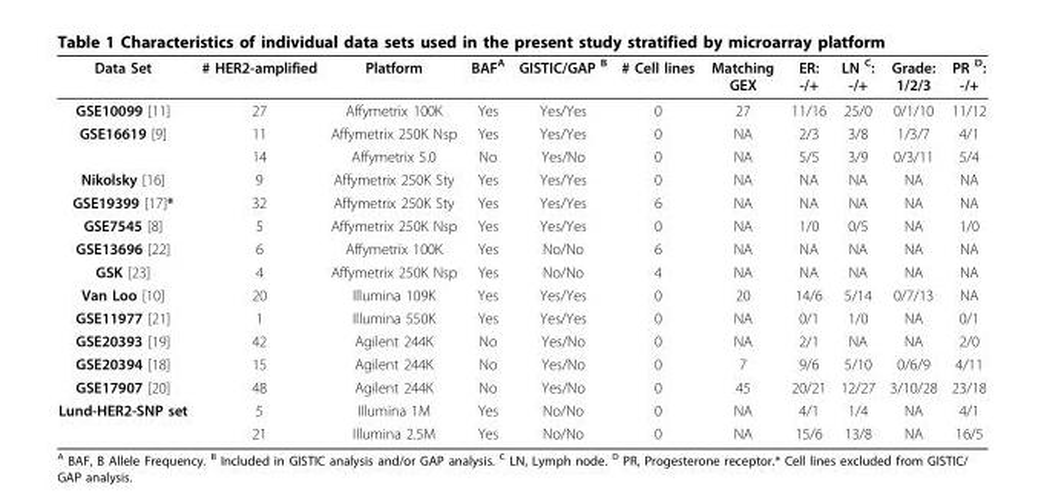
<table><thead><tr><td>Data Set</td><td># HER2-amplified</td><td>Platform</td><td>BAF<sup>A</sup></td><td>GISTIC/GAP <sup>B</sup></td><td># Cell lines</td><td>Matching GEX</td><td>ER: -/+</td><td>LN <sup>C</sup>: -/+</td><td>Grade: 1/2/3</td><td>PR <sup>D</sup>: -/+</td></tr></thead><tbody><tr><td>GSE10099 [11]</td><td>27</td><td>Affymetrix 100K</td><td>Yes</td><td>Yes/Yes</td><td>0</td><td>27</td><td>11/16</td><td>25/0</td><td>0/1/10</td><td>11/12</td></tr><tr><td rowspan="2">GSE16619 [9]</td><td>11</td><td>Affymetrix 250K Nsp</td><td>Yes</td><td>Yes/Yes</td><td>0</td><td>NA</td><td>2/3</td><td>3/8</td><td>1/3/7</td><td>4/1</td></tr><tr><td>14</td><td>Affymetrix 5.0</td><td>No</td><td>Yes/No</td><td>0</td><td>NA</td><td>5/5</td><td>3/9</td><td>0/3/11</td><td>5/4</td></tr><tr><td>Nikolsky [16]</td><td>9</td><td>Affymetrix 250K Sty</td><td>Yes</td><td>Yes/Yes</td><td>0</td><td>NA</td><td>NA</td><td>NA</td><td>NA</td><td>NA</td></tr><tr><td>GSE19399 [17]*</td><td>32</td><td>Affymetrix 250K Sty</td><td>Yes</td><td>Yes/Yes</td><td>6</td><td>NA</td><td>NA</td><td>NA</td><td>NA</td><td>NA</td></tr><tr><td>GSE7545 [8]</td><td>5</td><td>Affymetrix 250K Nsp</td><td>Yes</td><td>Yes/Yes</td><td>0</td><td>NA</td><td>1/0</td><td>0/5</td><td>NA</td><td>1/0</td></tr><tr><td>GSE13696 [22]</td><td>6</td><td>Affymetrix 100K</td><td>Yes</td><td>No/No</td><td>6</td><td>NA</td><td>NA</td><td>NA</td><td>NA</td><td>NA</td></tr><tr><td>GSK [23]</td><td>4</td><td>Affymetrix 250K Nsp</td><td>Yes</td><td>No/No</td><td>4</td><td>NA</td><td>NA</td><td>NA</td><td>NA</td><td>NA</td></tr><tr><td>Van Loo [10]</td><td>20</td><td>Illumina 109K</td><td>Yes</td><td>Yes/Yes</td><td>0</td><td>20</td><td>14/6</td><td>5/14</td><td>0/7/13</td><td>NA</td></tr><tr><td>GSE11977 [21]</td><td>1</td><td>Illumina 550K</td><td>Yes</td><td>Yes/Yes</td><td>0</td><td>NA</td><td>0/1</td><td>1/0</td><td>NA</td><td>0/1</td></tr><tr><td>GSE20393 [19]</td><td>42</td><td>Agilent 244K</td><td>No</td><td>Yes/No</td><td>0</td><td>NA</td><td>2/1</td><td>NA</td><td>NA</td><td>2/0</td></tr><tr><td>GSE20394 [18]</td><td>15</td><td>Agilent 244K</td><td>No</td><td>Yes/No</td><td>0</td><td>7</td><td>9/6</td><td>5/10</td><td>0/6/9</td><td>4/11</td></tr><tr><td>GSE17907 [20]</td><td>48</td><td>Agilent 244K</td><td>No</td><td>Yes/No</td><td>0</td><td>45</td><td>20/21</td><td>12/27</td><td>3/10/28</td><td>23/18</td></tr><tr><td rowspan="2">Lund-HER2-SNP set</td><td>5</td><td>Illumina 1M</td><td>Yes</td><td>No/No</td><td>0</td><td>NA</td><td>4/1</td><td>1/4</td><td>NA</td><td>4/1</td></tr><tr><td>21</td><td>Illumina 2.5M</td><td>Yes</td><td>No/No</td><td>0</td><td>NA</td><td>15/6</td><td>13/8</td><td>NA</td><td>16/5</td></tr></tbody></table>